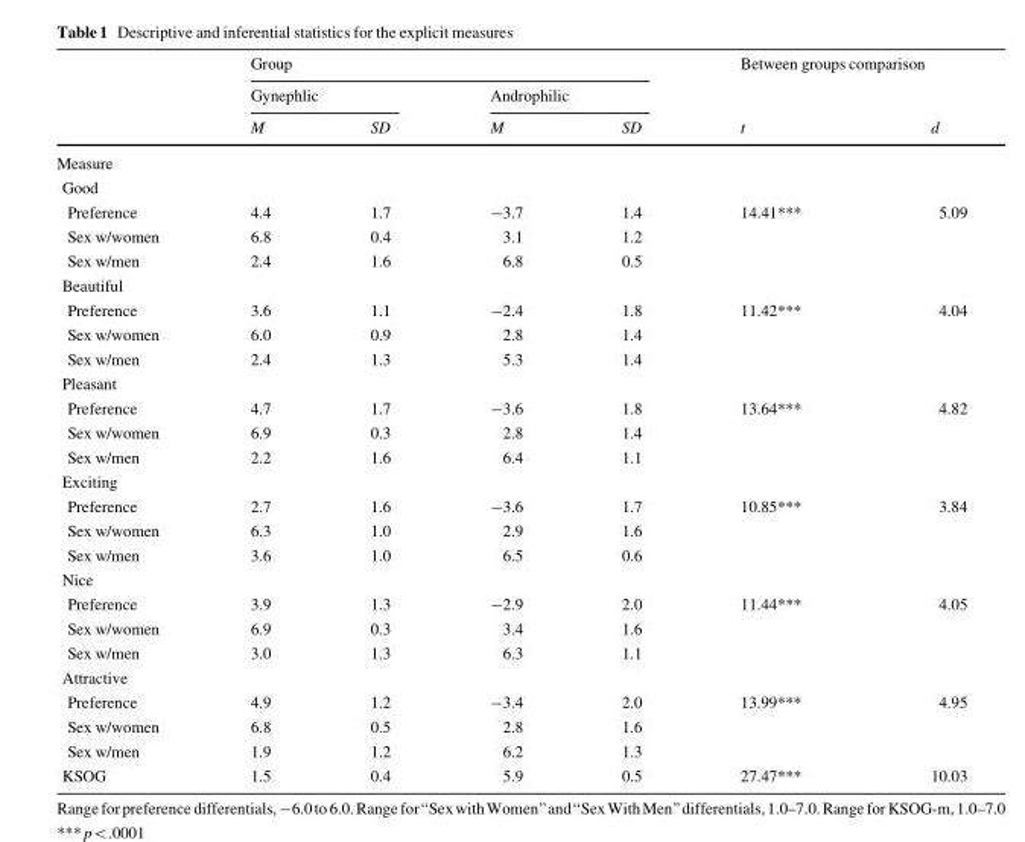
<table><thead><tr><td rowspan="3"></td><td colspan="4">Group</td><td rowspan="2" colspan="2">Between groups comparison</td></tr><tr><td colspan="2">Gynephlic</td><td colspan="2">Androphilic</td></tr><tr><td>M</td><td>SD</td><td>M</td><td>SD</td><td>t</td><td>d</td></tr></thead><tbody><tr><td colspan="7">Measure</td></tr><tr><td colspan="7">Good</td></tr><tr><td>Preference</td><td>4.4</td><td>1.7</td><td>-3.7</td><td>1.4</td><td>14.41***</td><td>5.09</td></tr><tr><td>Sex w/women</td><td>6.8</td><td>0.4</td><td>3.1</td><td>1.2</td><td></td><td></td></tr><tr><td>Sex w/men</td><td>2.4</td><td>1.6</td><td>6.8</td><td>0.5</td><td></td><td></td></tr><tr><td colspan="7">Beautiful</td></tr><tr><td>Preference</td><td>3.6</td><td>1.1</td><td>-2.4</td><td>1.8</td><td>11.42***</td><td>4.04</td></tr><tr><td>Sex w/women</td><td>6.0</td><td>0.9</td><td>2.8</td><td>1.4</td><td></td><td></td></tr><tr><td>Sex w/men</td><td>2.4</td><td>1.3</td><td>5.3</td><td>1.4</td><td></td><td></td></tr><tr><td colspan="7">Pleasant</td></tr><tr><td>Preference</td><td>4.7</td><td>1.7</td><td>-3.6</td><td>1.8</td><td>13.64***</td><td>4.82</td></tr><tr><td>Sex w/women</td><td>6.9</td><td>0.3</td><td>2.8</td><td>1.4</td><td></td><td></td></tr><tr><td>Sex w/men</td><td>2.2</td><td>1.6</td><td>6.4</td><td>1.1</td><td></td><td></td></tr><tr><td colspan="7">Exciting</td></tr><tr><td>Preference</td><td>2.7</td><td>1.6</td><td>-3.6</td><td>1.7</td><td>10.85***</td><td>3.84</td></tr><tr><td>Sex w/women</td><td>6.3</td><td>1.0</td><td>2.9</td><td>1.6</td><td></td><td></td></tr><tr><td>Sex w/men</td><td>3.6</td><td>1.0</td><td>6.5</td><td>0.6</td><td></td><td></td></tr><tr><td colspan="7">Nice</td></tr><tr><td>Preference</td><td>3.9</td><td>1.3</td><td>-2.9</td><td>2.0</td><td>11.44***</td><td>4.05</td></tr><tr><td>Sex w/women</td><td>6.9</td><td>0.3</td><td>3.4</td><td>1.6</td><td></td><td></td></tr><tr><td>Sex w/men</td><td>3.0</td><td>1.3</td><td>6.3</td><td>1.1</td><td></td><td></td></tr><tr><td colspan="7">Attractive</td></tr><tr><td>Preference</td><td>4.9</td><td>1.2</td><td>-3.4</td><td>2.0</td><td>13.99***</td><td>4.95</td></tr><tr><td>Sex w/women</td><td>6.8</td><td>0.5</td><td>2.8</td><td>1.6</td><td></td><td></td></tr><tr><td>Sex w/men</td><td>1.9</td><td>1.2</td><td>6.2</td><td>1.3</td><td></td><td></td></tr><tr><td>KSOG</td><td>1.5</td><td>0.4</td><td>5.9</td><td>0.5</td><td>27.47***</td><td>10.03</td></tr></tbody></table>